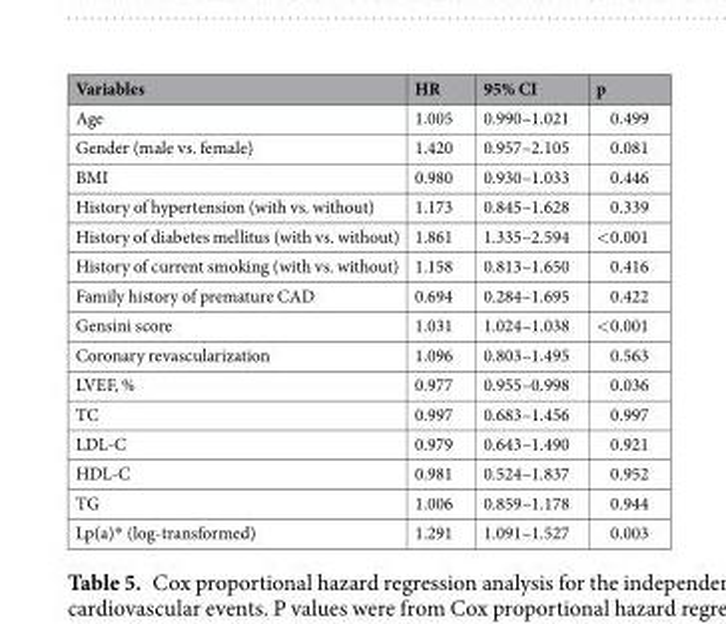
<table><thead><tr><td>Variables</td><td>HR</td><td>95% CI</td><td>p</td></tr></thead><tbody><tr><td>Age</td><td>1.005</td><td>0.990–1.021</td><td>0.499</td></tr><tr><td>Gender (male vs. female)</td><td>1.420</td><td>0.957–2.105</td><td>0.081</td></tr><tr><td>BMI</td><td>0.980</td><td>0.930–1.033</td><td>0.446</td></tr><tr><td>History of hypertension (with vs. without)</td><td>1.173</td><td>0.845–1.628</td><td>0.339</td></tr><tr><td>History of diabetes mellitus (with vs. without)</td><td>1.861</td><td>1.335–2.594</td><td>&lt;0.001</td></tr><tr><td>History of current smoking (with vs. without)</td><td>1.158</td><td>0.813–1.650</td><td>0.416</td></tr><tr><td>Family history of premature CAD</td><td>0.694</td><td>0.284–1.695</td><td>0.422</td></tr><tr><td>Gensini score</td><td>1.031</td><td>1.024–1.038</td><td>&lt;0.001</td></tr><tr><td>Coronary revascularization</td><td>1.096</td><td>0.803–1.495</td><td>0.563</td></tr><tr><td>LVEF, %</td><td>0.977</td><td>0.955–0.998</td><td>0.036</td></tr><tr><td>TC</td><td>0.997</td><td>0.683–1.456</td><td>0.997</td></tr><tr><td>LDL-C</td><td>0.979</td><td>0.643–1.490</td><td>0.921</td></tr><tr><td>HDL-C</td><td>0.981</td><td>0.524–1.837</td><td>0.952</td></tr><tr><td>TG</td><td>1.006</td><td>0.859–1.178</td><td>0.944</td></tr><tr><td>Lp(a)* (log-transformed)</td><td>1.291</td><td>1.091–1.527</td><td>0.003</td></tr></tbody></table>